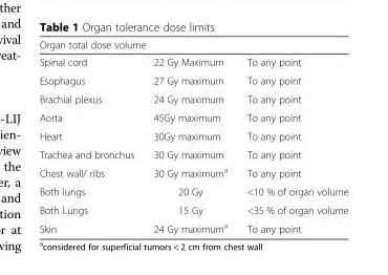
<table><thead><tr><td colspan="3">Organ total dose volume</td></tr><tr><td>Spinal cord</td><td>22 Gy Maximum</td><td>To any point</td></tr></thead><tbody><tr><td>Esophagus</td><td>27 Gy maximum</td><td>To any point</td></tr><tr><td>Brachial plexus</td><td>24 Gy maximum</td><td>To any point</td></tr><tr><td>Aorta</td><td>45Gy maximum</td><td>To any point</td></tr><tr><td>Heart</td><td>30Gy maximum</td><td>To any point</td></tr><tr><td>Trachea and bronchus</td><td>30 Gy maximum</td><td>To any point</td></tr><tr><td>Chest wall/ ribs</td><td>30 Gy maximum<sup>a</sup></td><td>To any point</td></tr><tr><td>Both lungs</td><td>20 Gy</td><td>&lt;10 % of organ volume</td></tr><tr><td>Both Lungs</td><td>15 Gy</td><td>&lt;35 % of organ volume</td></tr><tr><td>Skin</td><td>24 Gy maximum<sup>a</sup></td><td>To any point</td></tr></tbody></table>